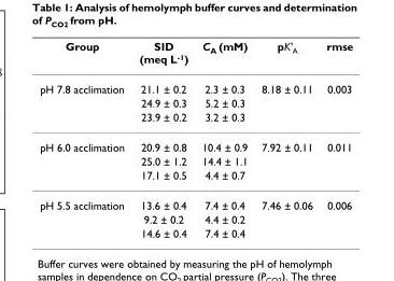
<table><thead><tr><td>Group</td><td>SID (meq L<sup>-1</sup>)</td><td>C<sub>A</sub> (mM)</td><td>pK&#x27;<sub>A</sub></td><td>rmse</td></tr></thead><tbody><tr><td rowspan="3">pH 7.8 acclimation</td><td>21.1 ± 0.2</td><td>2.3 ± 0.3</td><td>8.18 ± 0.11</td><td>0.003</td></tr><tr><td>24.9 ± 0.3</td><td>5.2 ± 0.3</td><td></td><td></td></tr><tr><td>23.9 ± 0.2</td><td>3.2 ± 0.3</td><td></td><td></td></tr><tr><td rowspan="3">pH 6.0 acclimation</td><td>20.9 ± 0.8</td><td>10.4 ± 0.9</td><td>7.92 ± 0.11</td><td>0.011</td></tr><tr><td>25.0 ± 1.2</td><td>14.4 ± 1.1</td><td></td><td></td></tr><tr><td>17.1 ± 0.5</td><td>4.4 ± 0.7</td><td></td><td></td></tr><tr><td rowspan="3">pH 5.5 acclimation</td><td>13.6 ± 0.4</td><td>7.4 ± 0.4</td><td>7.46 ± 0.06</td><td>0.006</td></tr><tr><td>9.2 ± 0.2</td><td>4.4 ± 0.2</td><td></td><td></td></tr><tr><td>14.6 ± 0.4</td><td>7.4 ± 0.4</td><td></td><td></td></tr></tbody></table>